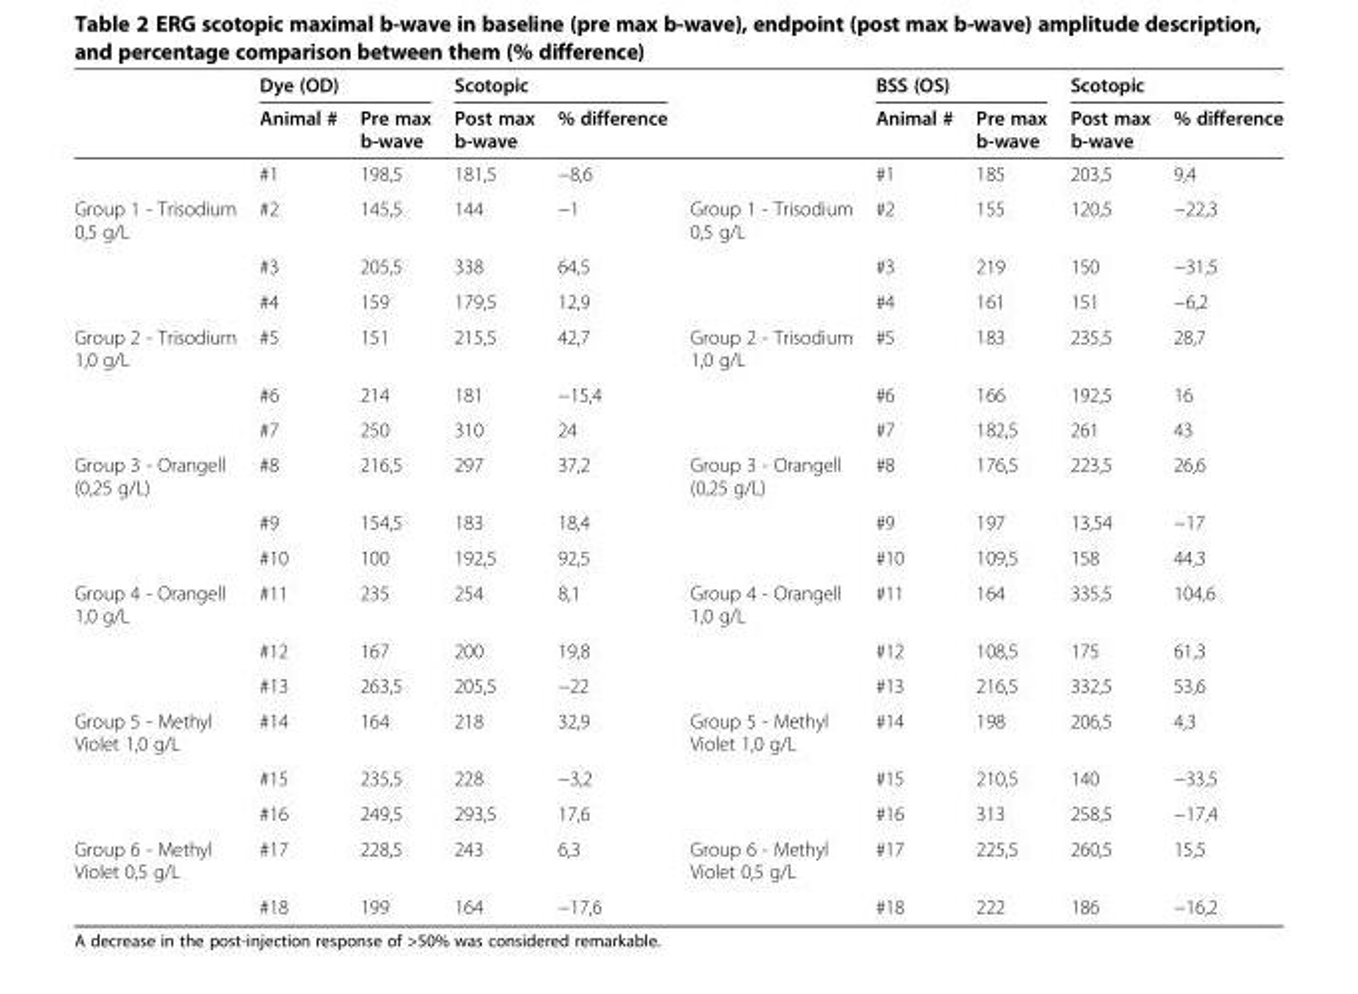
<table><thead><tr><td rowspan="2"></td><td colspan="2">Dye (OD)</td><td colspan="2">Scotopic</td><td rowspan="2"></td><td colspan="2">BSS (OS)</td><td colspan="2">Scotopic</td></tr><tr><td>Animal #</td><td>Pre max b-wave</td><td>Post max b-wave</td><td>% difference</td><td>Animal #</td><td>Pre max b-wave</td><td>Post max b-wave</td><td>% difference</td></tr></thead><tbody><tr><td></td><td>#1</td><td>198,5</td><td>181,5</td><td>−8,6</td><td></td><td>#1</td><td>185</td><td>203,5</td><td>9,4</td></tr><tr><td rowspan="3">Group 1 - Trisodium 0,5 g/L</td><td>#2</td><td>145,5</td><td>144</td><td>−1</td><td>Group 1 - Trisodium 0,5 g/L</td><td>#2</td><td>155</td><td>120,5</td><td>−22,3</td></tr><tr><td>#3</td><td>205,5</td><td>338</td><td>64,5</td><td></td><td>#3</td><td>219</td><td>150</td><td>−31,5</td></tr><tr><td>#4</td><td>159</td><td>179,5</td><td>12,9</td><td></td><td>#4</td><td>161</td><td>151</td><td>−6,2</td></tr><tr><td rowspan="3">Group 2 - Trisodium 1,0 g/L</td><td>#5</td><td>151</td><td>215,5</td><td>42,7</td><td>Group 2 - Trisodium 1,0 g/L</td><td>#5</td><td>183</td><td>235,5</td><td>28,7</td></tr><tr><td>#6</td><td>214</td><td>181</td><td>−15,4</td><td></td><td>#6</td><td>166</td><td>192,5</td><td>16</td></tr><tr><td>#7</td><td>250</td><td>310</td><td>24</td><td></td><td>#7</td><td>182,5</td><td>261</td><td>43</td></tr><tr><td rowspan="3">Group 3 - Orangell (0,25 g/L)</td><td>#8</td><td>216,5</td><td>297</td><td>37,2</td><td>Group 3 - Orangell (0,25 g/L)</td><td>#8</td><td>176,5</td><td>223,5</td><td>26,6</td></tr><tr><td>#9</td><td>154,5</td><td>183</td><td>18,4</td><td></td><td>#9</td><td>197</td><td>13,54</td><td>−17</td></tr><tr><td>#10</td><td>100</td><td>192,5</td><td>92,5</td><td></td><td>#10</td><td>109,5</td><td>158</td><td>44,3</td></tr><tr><td rowspan="3">Group 4 - Orangell 1,0 g/L</td><td>#11</td><td>235</td><td>254</td><td>8,1</td><td>Group 4 - Orangell 1,0 g/L</td><td>#11</td><td>164</td><td>335,5</td><td>104,6</td></tr><tr><td>#12</td><td>167</td><td>200</td><td>19,8</td><td></td><td>#12</td><td>108,5</td><td>175</td><td>61,3</td></tr><tr><td>#13</td><td>263,5</td><td>205,5</td><td>−22</td><td></td><td>#13</td><td>216,5</td><td>332,5</td><td>53,6</td></tr><tr><td rowspan="3">Group 5 - Methyl Violet 1,0 g/L</td><td>#14</td><td>164</td><td>218</td><td>32,9</td><td>Group 5 - Methyl Violet 1,0 g/L</td><td>#14</td><td>198</td><td>206,5</td><td>4,3</td></tr><tr><td>#15</td><td>235,5</td><td>228</td><td>−3,2</td><td></td><td>#15</td><td>210,5</td><td>140</td><td>−33,5</td></tr><tr><td>#16</td><td>249,5</td><td>293,5</td><td>17,6</td><td></td><td>#16</td><td>313</td><td>258,5</td><td>−17,4</td></tr><tr><td rowspan="2">Group 6 - Methyl Violet 0,5 g/L</td><td>#17</td><td>228,5</td><td>243</td><td>6,3</td><td>Group 6 - Methyl Violet 0,5 g/L</td><td>#17</td><td>225,5</td><td>260,5</td><td>15,5</td></tr><tr><td>#18</td><td>199</td><td>164</td><td>−17,6</td><td></td><td>#18</td><td>222</td><td>186</td><td>−16,2</td></tr></tbody></table>